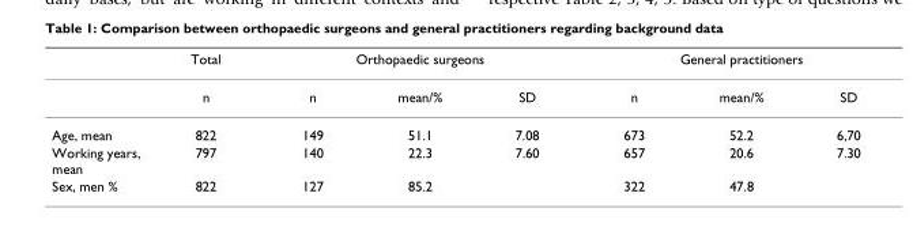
<table><thead><tr><td rowspan="2"></td><td rowspan="2">Total n</td><td colspan="3">Orthopaedic surgeons</td><td colspan="3">General practitioners</td></tr><tr><td>n</td><td>mean/%</td><td>SD</td><td>n</td><td>mean/%</td><td>SD</td></tr></thead><tbody><tr><td>Age, mean</td><td>822</td><td>149</td><td>51.1</td><td>7.08</td><td>673</td><td>52.2</td><td>6,70</td></tr><tr><td>Working years, mean</td><td>797</td><td>140</td><td>22.3</td><td>7.60</td><td>657</td><td>20.6</td><td>7.30</td></tr><tr><td>Sex, men %</td><td>822</td><td>127</td><td>85.2</td><td></td><td>322</td><td>47.8</td><td></td></tr></tbody></table>